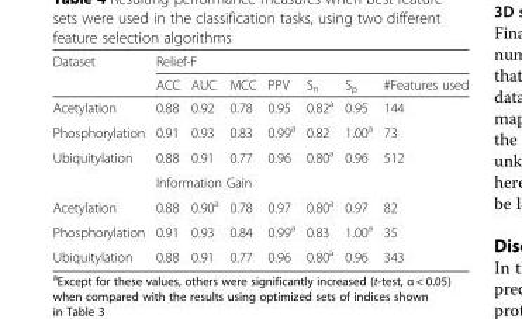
<table><thead><tr><td rowspan="2">Dataset</td><td colspan="7">Relief-F</td></tr><tr><td>ACC</td><td>AUC</td><td>MCC</td><td>PPV</td><td>S<sub>n</sub></td><td>S<sub>p</sub></td><td>#Features used</td></tr></thead><tbody><tr><td>Acetylation</td><td>0.88</td><td>0.92</td><td>0.78</td><td>0.95</td><td>0.82<sup>a</sup></td><td>0.95</td><td>144</td></tr><tr><td>Phosphorylation</td><td>0.91</td><td>0.93</td><td>0.83</td><td>0.99<sup>a</sup></td><td>0.82</td><td>1.00<sup>a</sup></td><td>73</td></tr><tr><td rowspan="2">Ubiquitylation</td><td>0.88</td><td>0.91</td><td>0.77</td><td>0.96</td><td>0.80<sup>a</sup></td><td>0.96</td><td>512</td></tr><tr><td colspan="7">Information Gain</td></tr><tr><td>Acetylation</td><td>0.88</td><td>0.90<sup>a</sup></td><td>0.78</td><td>0.97</td><td>0.80<sup>a</sup></td><td>0.97</td><td>82</td></tr><tr><td>Phosphorylation</td><td>0.91</td><td>0.93</td><td>0.84</td><td>0.99<sup>a</sup></td><td>0.83</td><td>1.00<sup>a</sup></td><td>35</td></tr><tr><td>Ubiquitylation</td><td>0.88</td><td>0.91</td><td>0.77</td><td>0.96</td><td>0.80<sup>a</sup></td><td>0.96</td><td>343</td></tr></tbody></table>